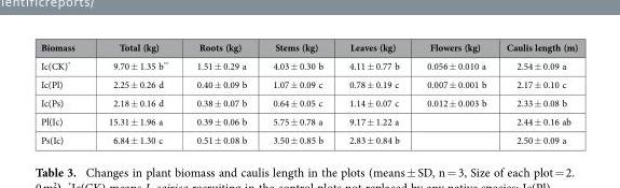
<table><thead><tr><td>Biomass</td><td>Total (kg)</td><td>Roots (kg)</td><td>Stems (kg)</td><td>Leaves (kg)</td><td>Flowers (kg)</td><td>Caulis length (m)</td></tr></thead><tbody><tr><td>Ic(CK)*</td><td>9.70 ± 1.35 b**</td><td>1.51 ± 0.29 a</td><td>4.03 ± 0.30 b</td><td>4.11 ± 0.77 b</td><td>0.056 ± 0.010 a</td><td>2.54 ± 0.09 a</td></tr><tr><td>Ic(Pl)</td><td>2.25 ± 0.26 d</td><td>0.40 ± 0.09 b</td><td>1.07 ± 0.09 c</td><td>0.78 ± 0.19 c</td><td>0.007 ± 0.001 b</td><td>2.17 ± 0.10 c</td></tr><tr><td>Ic(Ps)</td><td>2.18 ± 0.16 d</td><td>0.38 ± 0.07 b</td><td>0.64 ± 0.05 c</td><td>1.14 ± 0.07 c</td><td>0.012 ± 0.003 b</td><td>2.33 ± 0.08 b</td></tr><tr><td>Pl(Ic)</td><td>15.31 ± 1.96 a</td><td>0.39 ± 0.06 b</td><td>5.75 ± 0.78 a</td><td>9.17 ± 1.22 a</td><td></td><td>2.44 ± 0.16 ab</td></tr><tr><td>Ps(Ic)</td><td>6.84 ± 1.30 c</td><td>0.51 ± 0.08 b</td><td>3.50 ± 0.85 b</td><td>2.83 ± 0.84 b</td><td></td><td>2.50 ± 0.09 a</td></tr></tbody></table>